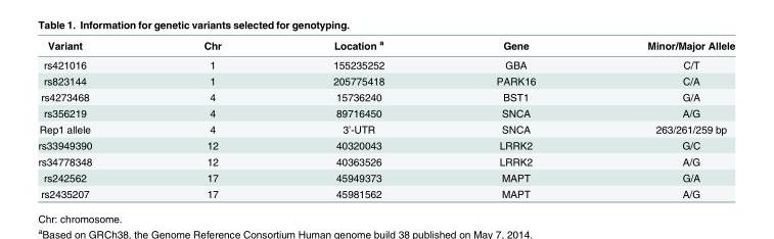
<table><thead><tr><td>Variant</td><td>Chr</td><td>Location <sup>a</sup></td><td>Gene</td><td>Minor/Major Allele</td></tr></thead><tbody><tr><td>rs421016</td><td>1</td><td>155235252</td><td>GBA</td><td>C/T</td></tr><tr><td>rs823144</td><td>1</td><td>205775418</td><td>PARK16</td><td>C/A</td></tr><tr><td>rs4273468</td><td>4</td><td>15736240</td><td>BST1</td><td>G/A</td></tr><tr><td>rs356219</td><td>4</td><td>89716450</td><td>SNCA</td><td>A/G</td></tr><tr><td>Rep1 allele</td><td>4</td><td>3’-UTR</td><td>SNCA</td><td>263/261/259 bp</td></tr><tr><td>rs33949390</td><td>12</td><td>40320043</td><td>LRRK2</td><td>G/C</td></tr><tr><td>rs34778348</td><td>12</td><td>40363526</td><td>LRRK2</td><td>A/G</td></tr><tr><td>rs242562</td><td>17</td><td>45949373</td><td>MAPT</td><td>G/A</td></tr><tr><td>rs2435207</td><td>17</td><td>45981562</td><td>MAPT</td><td>A/G</td></tr></tbody></table>